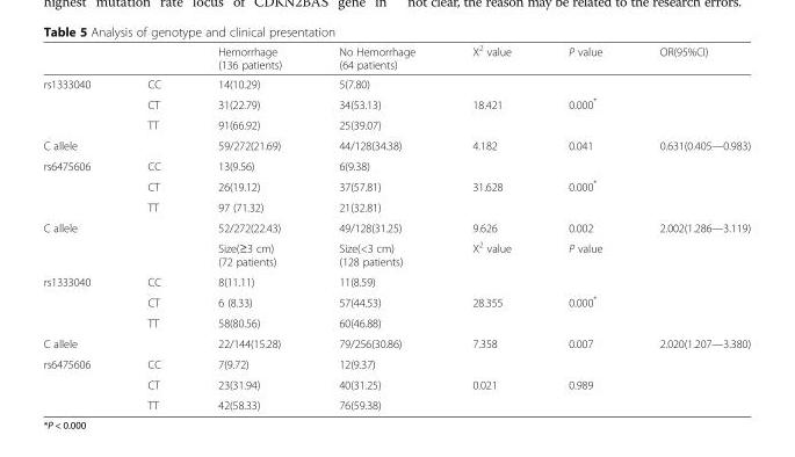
<table><thead><tr><td></td><td></td><td>Hemorrhage (136 patients)</td><td>No Hemorrhage (64 patients)</td><td>X<sup>2</sup> value</td><td>P value</td><td>OR(95%CI)</td></tr></thead><tbody><tr><td rowspan="3">rs1333040</td><td>CC</td><td>14(10.29)</td><td>5(7.80)</td><td></td><td></td><td></td></tr><tr><td>CT</td><td>31(22.79)</td><td>34(53.13)</td><td>18.421</td><td>0.000*</td><td></td></tr><tr><td>TT</td><td>91(66.92)</td><td>25(39.07)</td><td></td><td></td><td></td></tr><tr><td colspan="2">C allele</td><td>59/272(21.69)</td><td>44/128(34.38)</td><td>4.182</td><td>0.041</td><td>0.631(0.405—0.983)</td></tr><tr><td rowspan="3">rs6475606</td><td>CC</td><td>13(9.56)</td><td>6(9.38)</td><td></td><td></td><td></td></tr><tr><td>CT</td><td>26(19.12)</td><td>37(57.81)</td><td>31.628</td><td>0.000*</td><td></td></tr><tr><td>TT</td><td>97 (71.32)</td><td>21(32.81)</td><td></td><td></td><td></td></tr><tr><td rowspan="2" colspan="2">C allele</td><td>52/272(22.43)</td><td>49/128(31.25)</td><td>9.626</td><td>0.002</td><td>2.002(1.286—3.119)</td></tr><tr><td>Size(≥3 cm) (72 patients)</td><td>Size(&lt;3 cm) (128 patients)</td><td>X<sup>2</sup> value</td><td>P value</td><td></td></tr><tr><td rowspan="3">rs1333040</td><td>CC</td><td>8(11.11)</td><td>11(8.59)</td><td></td><td></td><td></td></tr><tr><td>CT</td><td>6 (8.33)</td><td>57(44.53)</td><td>28.355</td><td>0.000*</td><td></td></tr><tr><td>TT</td><td>58(80.56)</td><td>60(46.88)</td><td></td><td></td><td></td></tr><tr><td colspan="2">C allele</td><td>22/144(15.28)</td><td>79/256(30.86)</td><td>7.358</td><td>0.007</td><td>2.020(1.207—3.380)</td></tr><tr><td rowspan="3">rs6475606</td><td>CC</td><td>7(9.72)</td><td>12(9.37)</td><td></td><td></td><td></td></tr><tr><td>CT</td><td>23(31.94)</td><td>40(31.25)</td><td>0.021</td><td>0.989</td><td></td></tr><tr><td>TT</td><td>42(58.33)</td><td>76(59.38)</td><td></td><td></td><td></td></tr></tbody></table>